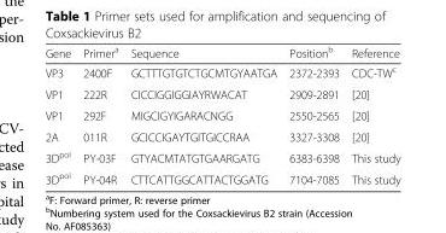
<table><thead><tr><td>Gene</td><td>Primer<sup>a</sup></td><td>Sequence</td><td>Position<sup>b</sup></td><td>Reference</td></tr></thead><tbody><tr><td>VP3</td><td>2400F</td><td>GCTTTGTGTCTGCMTGYAATGA</td><td>2372-2393</td><td>CDC-TW<sup>c</sup></td></tr><tr><td>VP1</td><td>222R</td><td>CICCIGGIGGIAYRWACAT</td><td>2909-2891</td><td>[20]</td></tr><tr><td>VP1</td><td>292F</td><td>MIGCIGYIGARACNGG</td><td>2550-2565</td><td>[20]</td></tr><tr><td>2A</td><td>011R</td><td>GCICCIGAYTGITGICCRAA</td><td>3327-3308</td><td>[20]</td></tr><tr><td>3D<sup>pol</sup></td><td>PY-03F</td><td>GTYACMTATGTGAARGATG</td><td>6383-6398</td><td>This study</td></tr><tr><td>3D<sup>pol</sup></td><td>PY-04R</td><td>CTTCATTGGCATTACTGGATG</td><td>7104-7085</td><td>This study</td></tr></tbody></table>